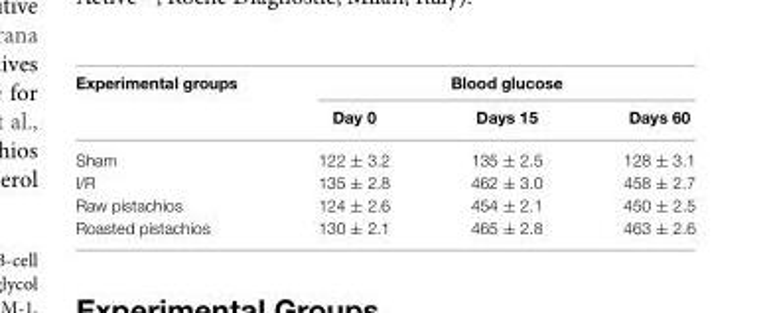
<table><thead><tr><td rowspan="2">Experimental groups</td><td colspan="3">Blood glucose</td></tr><tr><td>Day 0</td><td>Days 15</td><td>Days 60</td></tr></thead><tbody><tr><td>Sham</td><td>122 ± 3.2</td><td>135 ± 2.5</td><td>128 ± 3.1</td></tr><tr><td>I/R</td><td>135 ± 2.8</td><td>462 ± 3.0</td><td>458 ± 2.7</td></tr><tr><td>Raw pistachios</td><td>124 ± 2.6</td><td>454 ± 2.1</td><td>450 ± 2.5</td></tr><tr><td>Roasted pistachios</td><td>130 ± 2.1</td><td>465 ± 2.8</td><td>463 ± 2.6</td></tr></tbody></table>